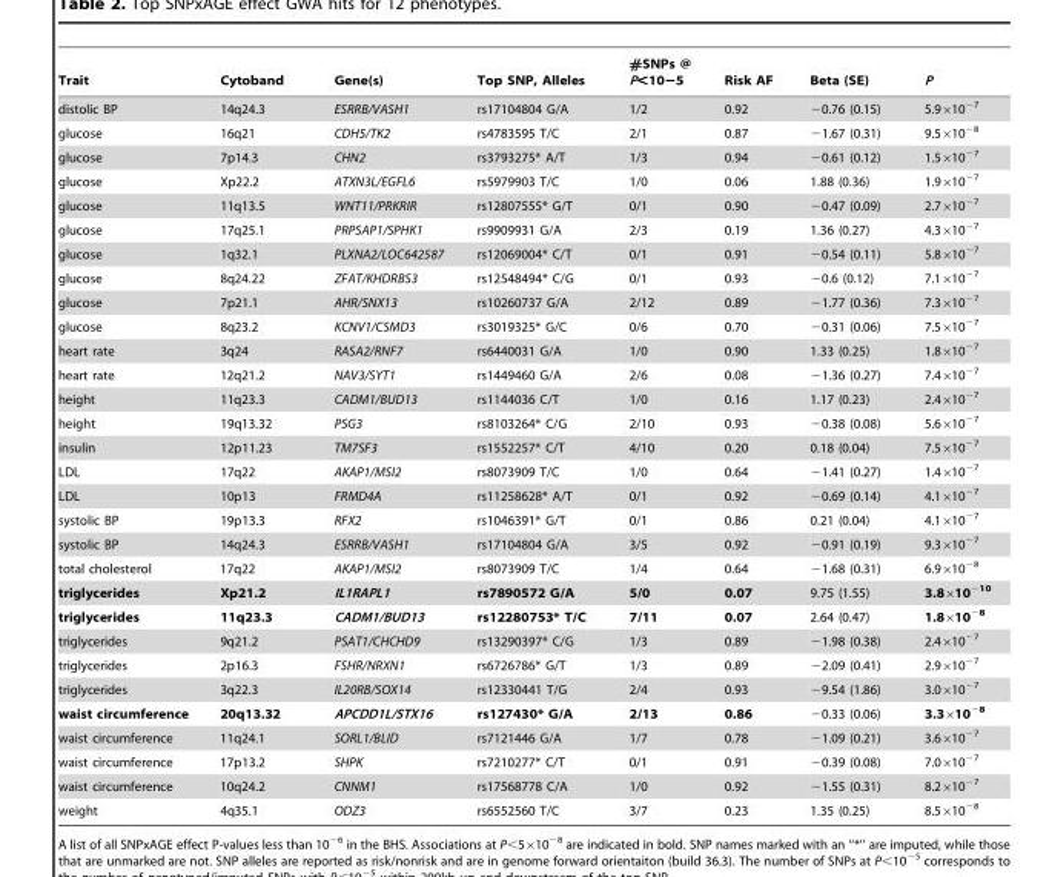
<table><thead><tr><td>Trait</td><td>Cytoband</td><td>Gene(s)</td><td>Top SNP, Alleles</td><td>#SNPs @ P&lt;10−5</td><td>Risk AF</td><td>Beta (SE)</td><td>P</td></tr></thead><tbody><tr><td>distolic BP</td><td>14q24.3</td><td>ESRRB/VASH1</td><td>rs17104804 G/A</td><td>1/2</td><td>0.92</td><td>−0.76 (0.15)</td><td>5.9×10<sup>−7</sup></td></tr><tr><td>glucose</td><td>16q21</td><td>CDH5/TK2</td><td>rs4783595 T/C</td><td>2/1</td><td>0.87</td><td>−1.67 (0.31)</td><td>9.5×10<sup>−8</sup></td></tr><tr><td>glucose</td><td>7p14.3</td><td>CHN2</td><td>rs3793275* A/T</td><td>1/3</td><td>0.94</td><td>−0.61 (0.12)</td><td>1.5×10<sup>−7</sup></td></tr><tr><td>glucose</td><td>Xp22.2</td><td>ATXN3L/EGFL6</td><td>rs5979903 T/C</td><td>1/0</td><td>0.06</td><td>1.88 (0.36)</td><td>1.9×10<sup>−7</sup></td></tr><tr><td>glucose</td><td>11q13.5</td><td>WNT11/PRKRIR</td><td>rs12807555* G/T</td><td>0/1</td><td>0.90</td><td>−0.47 (0.09)</td><td>2.7×10<sup>−7</sup></td></tr><tr><td>glucose</td><td>17q25.1</td><td>PRPSAP1/SPHK1</td><td>rs9909931 G/A</td><td>2/3</td><td>0.19</td><td>1.36 (0.27)</td><td>4.3×10<sup>−7</sup></td></tr><tr><td>glucose</td><td>1q32.1</td><td>PLXNA2/LOC642587</td><td>rs12069004* C/T</td><td>0/1</td><td>0.91</td><td>−0.54 (0.11)</td><td>5.8×10<sup>−7</sup></td></tr><tr><td>glucose</td><td>8q24.22</td><td>ZFAT/KHDRBS3</td><td>rs12548494* C/G</td><td>0/1</td><td>0.93</td><td>−0.6 (0.12)</td><td>7.1×10<sup>−7</sup></td></tr><tr><td>glucose</td><td>7p21.1</td><td>AHR/SNX13</td><td>rs10260737 G/A</td><td>2/12</td><td>0.89</td><td>−1.77 (0.36)</td><td>7.3×10<sup>−7</sup></td></tr><tr><td>glucose</td><td>8q23.2</td><td>KCNV1/CSMD3</td><td>rs3019325* G/C</td><td>0/6</td><td>0.70</td><td>−0.31 (0.06)</td><td>7.5×10<sup>−7</sup></td></tr><tr><td>heart rate</td><td>3q24</td><td>RASA2/RNF7</td><td>rs6440031 G/A</td><td>1/0</td><td>0.90</td><td>1.33 (0.25)</td><td>1.8×10<sup>−7</sup></td></tr><tr><td>heart rate</td><td>12q21.2</td><td>NAV3/SYT1</td><td>rs1449460 G/A</td><td>2/6</td><td>0.08</td><td>−1.36 (0.27)</td><td>7.4×10<sup>−7</sup></td></tr><tr><td>height</td><td>11q23.3</td><td>CADM1/BUD13</td><td>rs1144036 C/T</td><td>1/0</td><td>0.16</td><td>1.17 (0.23)</td><td>2.4×10<sup>−7</sup></td></tr><tr><td>height</td><td>19q13.32</td><td>PSG3</td><td>rs8103264* C/G</td><td>2/10</td><td>0.93</td><td>−0.38 (0.08)</td><td>5.6×10<sup>−7</sup></td></tr><tr><td>insulin</td><td>12p11.23</td><td>TM7SF3</td><td>rs1552257* C/T</td><td>4/10</td><td>0.20</td><td>0.18 (0.04)</td><td>7.5×10<sup>−7</sup></td></tr><tr><td>LDL</td><td>17q22</td><td>AKAP1/MSI2</td><td>rs8073909 T/C</td><td>1/0</td><td>0.64</td><td>−1.41 (0.27)</td><td>1.4×10<sup>−7</sup></td></tr><tr><td>LDL</td><td>10p13</td><td>FRMD4A</td><td>rs11258628* A/T</td><td>0/1</td><td>0.92</td><td>−0.69 (0.14)</td><td>4.1×10<sup>−7</sup></td></tr><tr><td>systolic BP</td><td>19p13.3</td><td>RFX2</td><td>rs1046391* G/T</td><td>0/1</td><td>0.86</td><td>0.21 (0.04)</td><td>4.1×10<sup>−7</sup></td></tr><tr><td>systolic BP</td><td>14q24.3</td><td>ESRRB/VASH1</td><td>rs17104804 G/A</td><td>3/5</td><td>0.92</td><td>−0.91 (0.19)</td><td>9.3×10<sup>−7</sup></td></tr><tr><td>total cholesterol</td><td>17q22</td><td>AKAP1/MSI2</td><td>rs8073909 T/C</td><td>1/4</td><td>0.64</td><td>−1.68 (0.31)</td><td>6.9×10<sup>−8</sup></td></tr><tr><td>triglycerides</td><td>Xp21.2</td><td>IL1RAPL1</td><td>rs7890572 G/A</td><td>5/0</td><td>0.07</td><td>9.75 (1.55)</td><td>3.8×10<sup>−10</sup></td></tr><tr><td>triglycerides</td><td>11q23.3</td><td>CADM1/BUD13</td><td>rs12280753* T/C</td><td>7/11</td><td>0.07</td><td>2.64 (0.47)</td><td>1.8×10<sup>−8</sup></td></tr><tr><td>triglycerides</td><td>9q21.2</td><td>PSAT1/CHCHD9</td><td>rs13290397* C/G</td><td>1/3</td><td>0.89</td><td>−1.98 (0.38)</td><td>2.4×10<sup>−7</sup></td></tr><tr><td>triglycerides</td><td>2p16.3</td><td>FSHR/NRXN1</td><td>rs6726786* G/T</td><td>1/3</td><td>0.89</td><td>−2.09 (0.41)</td><td>2.9×10<sup>−7</sup></td></tr><tr><td>triglycerides</td><td>3q22.3</td><td>IL20RB/SOX14</td><td>rs12330441 T/G</td><td>2/4</td><td>0.93</td><td>−9.54 (1.86)</td><td>3.0×10<sup>−7</sup></td></tr><tr><td>waist circumference</td><td>20q13.32</td><td>APCDD1L/STX16</td><td>rs127430* G/A</td><td>2/13</td><td>0.86</td><td>−0.33 (0.06)</td><td>3.3×10<sup>−8</sup></td></tr><tr><td>waist circumference</td><td>11q24.1</td><td>SORL1/BLID</td><td>rs7121446 G/A</td><td>1/7</td><td>0.78</td><td>−1.09 (0.21)</td><td>3.6×10<sup>−7</sup></td></tr><tr><td>waist circumference</td><td>17p13.2</td><td>SHPK</td><td>rs7210277* C/T</td><td>0/1</td><td>0.91</td><td>−0.39 (0.08)</td><td>7.0×10<sup>−7</sup></td></tr><tr><td>waist circumference</td><td>10q24.2</td><td>CNNM1</td><td>rs17568778 C/A</td><td>1/0</td><td>0.92</td><td>−1.55 (0.31)</td><td>8.2×10<sup>−7</sup></td></tr><tr><td>weight</td><td>4q35.1</td><td>ODZ3</td><td>rs6552560 T/C</td><td>3/7</td><td>0.23</td><td>1.35 (0.25)</td><td>8.5×10<sup>−8</sup></td></tr></tbody></table>